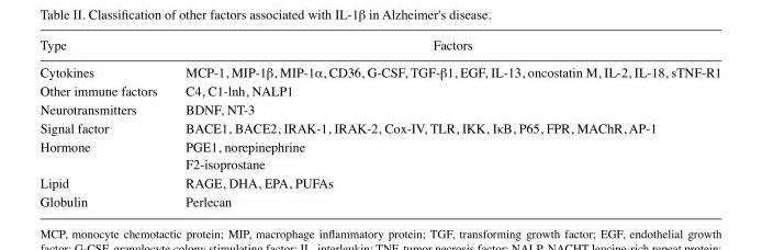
<table><thead><tr><td>Type</td><td>Factors</td></tr></thead><tbody><tr><td>Cytokines</td><td>MCP-1, MIP-1β, MIP-1α, CD36, G‑CSF, TGF‑β1, EGF, IL-13, oncostatin M, IL-2, IL-18, sTNF-R1</td></tr><tr><td>Other immune factors</td><td>C4, C1-lnh, NALP1</td></tr><tr><td>Neurotransmitters</td><td>BDNF, NT-3</td></tr><tr><td>Signal factor</td><td>BACE1, BACE2, IRAK‑1, IRAK‑2, Cox‑IV, TLR, IKK, IκB, P65, FPR, MAChR, AP‑1</td></tr><tr><td>Hormone</td><td>PGE1, norepinephrine F2-isoprostane</td></tr><tr><td>Lipid</td><td>RAGE, DHA, EPA, PUFAs</td></tr><tr><td>Globulin</td><td>Perlecan</td></tr></tbody></table>